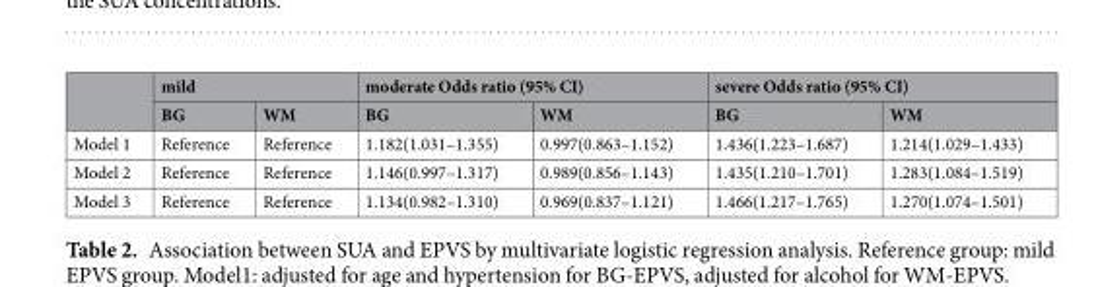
<table><thead><tr><td rowspan="2"></td><td colspan="2">mild</td><td colspan="2">moderate Odds ratio (95% CI)</td><td colspan="2">severe Odds ratio (95% CI)</td></tr><tr><td>BG</td><td>WM</td><td>BG</td><td>WM</td><td>BG</td><td>WM</td></tr></thead><tbody><tr><td>Model 1</td><td>Reference</td><td>Reference</td><td>1.182(1.031–1.355)</td><td>0.997(0.863–1.152)</td><td>1.436(1.223–1.687)</td><td>1.214(1.029–1.433)</td></tr><tr><td>Model 2</td><td>Reference</td><td>Reference</td><td>1.146(0.997–1.317)</td><td>0.989(0.856–1.143)</td><td>1.435(1.210–1.701)</td><td>1.283(1.084–1.519)</td></tr><tr><td>Model 3</td><td>Reference</td><td>Reference</td><td>1.134(0.982–1.310)</td><td>0.969(0.837–1.121)</td><td>1.466(1.217–1.765)</td><td>1.270(1.074–1.501)</td></tr></tbody></table>